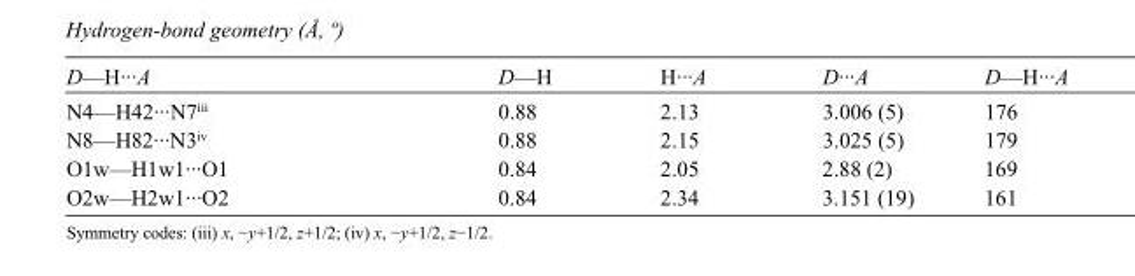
<table><tbody><tr><td>D—H···A</td><td>D—H</td><td>H···A</td><td>D···A</td><td>D—H···A</td></tr><tr><td>N4—H42···N7<sup>iii</sup></td><td>0.88</td><td>2.13</td><td>3.006 (5)</td><td>176</td></tr><tr><td>N8—H82···N3<sup>iv</sup></td><td>0.88</td><td>2.15</td><td>3.025 (5)</td><td>179</td></tr><tr><td>O1w—H1w1···O1</td><td>0.84</td><td>2.05</td><td>2.88 (2)</td><td>169</td></tr><tr><td>O2w—H2w1···O2</td><td>0.84</td><td>2.34</td><td>3.151 (19)</td><td>161</td></tr></tbody></table>